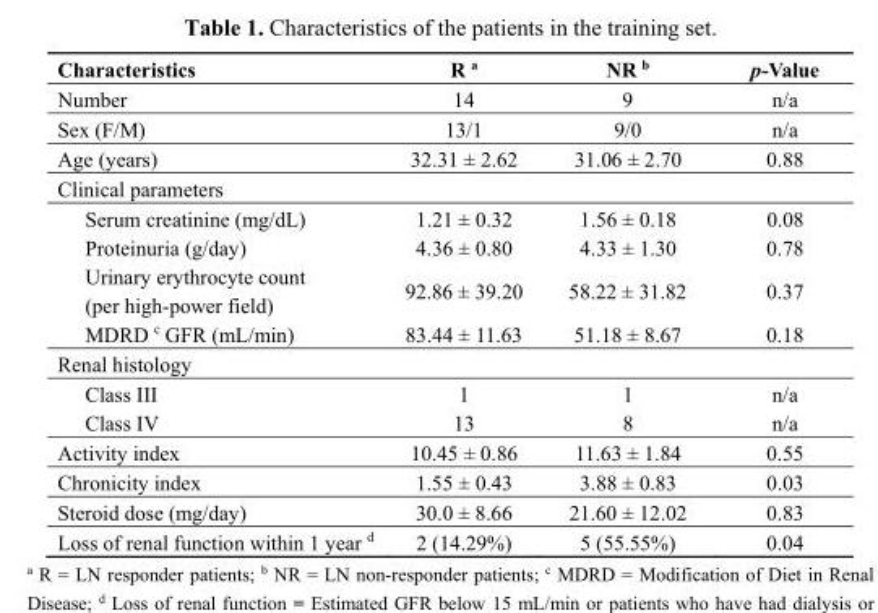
<table><thead><tr><td>Characteristics</td><td>R <sup>a</sup></td><td>NR <sup>b</sup></td><td>p-Value</td></tr></thead><tbody><tr><td>Number</td><td>14</td><td>9</td><td>n/a</td></tr><tr><td>Sex (F/M)</td><td>13/1</td><td>9/0</td><td>n/a</td></tr><tr><td>Age (years)</td><td>32.31 ± 2.62</td><td>31.06 ± 2.70</td><td>0.88</td></tr><tr><td colspan="4">Clinical parameters</td></tr><tr><td>Serum creatinine (mg/dL)</td><td>1.21 ± 0.32</td><td>1.56 ± 0.18</td><td>0.08</td></tr><tr><td>Proteinuria (g/day)</td><td>4.36 ± 0.80</td><td>4.33 ± 1.30</td><td>0.78</td></tr><tr><td>Urinary erythrocyte count (per high-power field)</td><td>92.86 ± 39.20</td><td>58.22 ± 31.82</td><td>0.37</td></tr><tr><td>MDRD <sup>c</sup> GFR (mL/min)</td><td>83.44 ± 11.63</td><td>51.18 ± 8.67</td><td>0.18</td></tr><tr><td colspan="4">Renal histology</td></tr><tr><td>Class III</td><td>1</td><td>1</td><td>n/a</td></tr><tr><td>Class IV</td><td>13</td><td>8</td><td>n/a</td></tr><tr><td>Activity index</td><td>10.45 ± 0.86</td><td>11.63 ± 1.84</td><td>0.55</td></tr><tr><td>Chronicity index</td><td>1.55 ± 0.43</td><td>3.88 ± 0.83</td><td>0.03</td></tr><tr><td>Steroid dose (mg/day)</td><td>30.0 ± 8.66</td><td>21.60 ± 12.02</td><td>0.83</td></tr><tr><td>Loss of renal function within 1 year <sup>d</sup></td><td>2 (14.29%)</td><td>5 (55.55%)</td><td>0.04</td></tr></tbody></table>